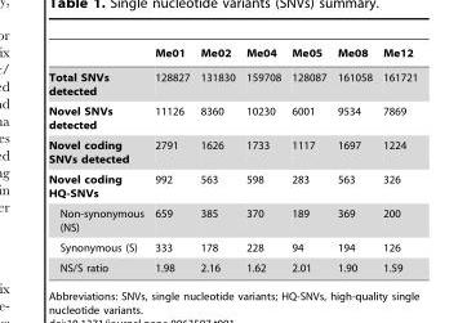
<table><thead><tr><td></td><td>Me01</td><td>Me02</td><td>Me04</td><td>Me05</td><td>Me08</td><td>Me12</td></tr></thead><tbody><tr><td>Total SNVs detected</td><td>128827</td><td>131830</td><td>159708</td><td>128087</td><td>161058</td><td>161721</td></tr><tr><td>Novel SNVs detected</td><td>11126</td><td>8360</td><td>10230</td><td>6001</td><td>9534</td><td>7869</td></tr><tr><td>Novel coding SNVs detected</td><td>2791</td><td>1626</td><td>1733</td><td>1117</td><td>1697</td><td>1224</td></tr><tr><td>Novel coding HQ-SNVs</td><td>992</td><td>563</td><td>598</td><td>283</td><td>563</td><td>326</td></tr><tr><td>Non-synonymous (NS)</td><td>659</td><td>385</td><td>370</td><td>189</td><td>369</td><td>200</td></tr><tr><td>Synonymous (S)</td><td>333</td><td>178</td><td>228</td><td>94</td><td>194</td><td>126</td></tr><tr><td>NS/S ratio</td><td>1.98</td><td>2.16</td><td>1.62</td><td>2.01</td><td>1.90</td><td>1.59</td></tr></tbody></table>